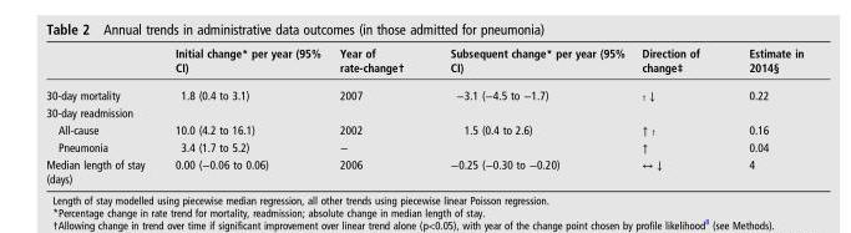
<table><thead><tr><td></td><td>Initial change* per year (95% CI)</td><td>Year of rate-change†</td><td>Subsequent change* per year (95% CI)</td><td>Direction of change‡</td><td>Estimate in 2014§</td></tr></thead><tbody><tr><td>30-day mortality</td><td>1.8 (0.4 to 3.1)</td><td>2007</td><td>−3.1 (−4.5 to −1.7)</td><td>↑ ↓</td><td>0.22</td></tr><tr><td colspan="6">30-day readmission</td></tr><tr><td>All-cause</td><td>10.0 (4.2 to 16.1)</td><td>2002</td><td>1.5 (0.4 to 2.6)</td><td>↑ ↑</td><td>0.16</td></tr><tr><td>Pneumonia</td><td>3.4 (1.7 to 5.2)</td><td>−</td><td></td><td>↑</td><td>0.04</td></tr><tr><td>Median length of stay (days)</td><td>0.00 (−0.06 to 0.06)</td><td>2006</td><td>−0.25 (−0.30 to −0.20)</td><td>↔ ↓</td><td>4</td></tr></tbody></table>